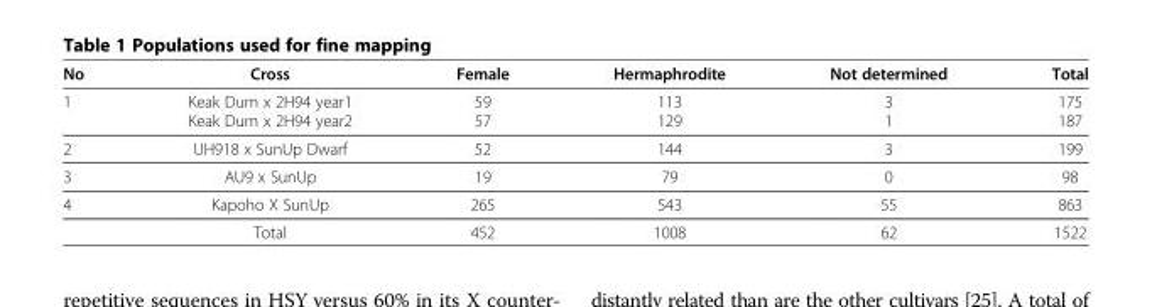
<table><thead><tr><td>No</td><td>Cross</td><td>Female</td><td>Hermaphrodite</td><td>Not determined</td><td>Total</td></tr></thead><tbody><tr><td>1</td><td>Keak Dum x 2H94 year1 Keak Dum x 2H94 year2</td><td>59 57</td><td>113 129</td><td>3 1</td><td>175 187</td></tr><tr><td>2</td><td>UH918 x SunUp Dwarf</td><td>52</td><td>144</td><td>3</td><td>199</td></tr><tr><td>3</td><td>AU9 x SunUp</td><td>19</td><td>79</td><td>0</td><td>98</td></tr><tr><td rowspan="2">4</td><td>Kapoho X SunUp</td><td>265</td><td>543</td><td>55</td><td>863</td></tr><tr><td>Total</td><td>452</td><td>1008</td><td>62</td><td>1522</td></tr></tbody></table>